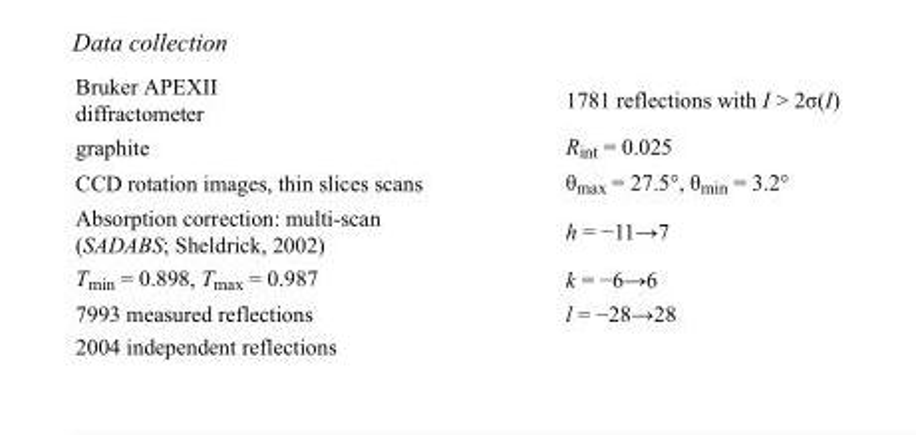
<table><tbody><tr><td>Bruker APEXII diffractometer</td><td>1781 reflections with I &gt; 2σ(I)</td></tr><tr><td>graphite</td><td>R<sub>int</sub> = 0.025</td></tr><tr><td>CCD rotation images, thin slices scans</td><td>θ<sub>max</sub> = 27.5°, θ<sub>min</sub> = 3.2°</td></tr><tr><td>Absorption correction: multi-scan (SADABS; Sheldrick, 2002)</td><td>h = −11→7</td></tr><tr><td>T<sub>min</sub> = 0.898, T<sub>max</sub> = 0.987</td><td>k = −6→6</td></tr><tr><td>7993 measured reflections</td><td>l = −28→28</td></tr><tr><td>2004 independent reflections</td><td></td></tr></tbody></table>